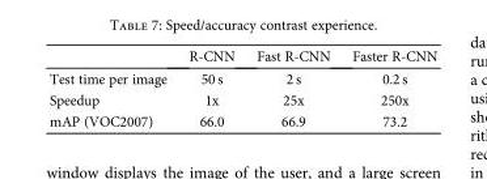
<table><thead><tr><td></td><td>R-CNN</td><td>Fast R-CNN</td><td>Faster R-CNN</td></tr></thead><tbody><tr><td>Test time per image</td><td>50 s</td><td>2 s</td><td>0.2 s</td></tr><tr><td>Speedup</td><td>1x</td><td>25x</td><td>250x</td></tr><tr><td>mAP (VOC2007)</td><td>66.0</td><td>66.9</td><td>73.2</td></tr></tbody></table>